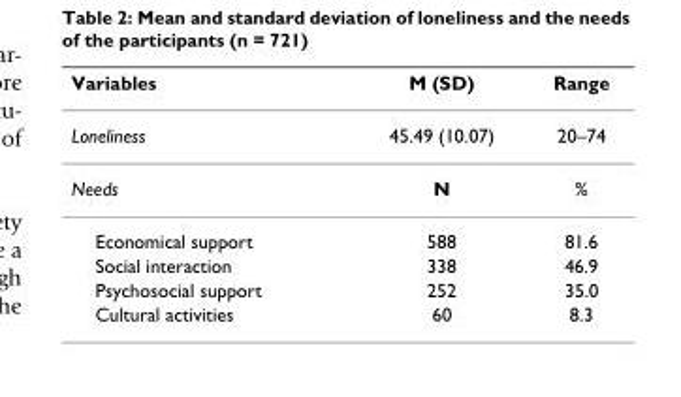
<table><thead><tr><td>Variables</td><td>M (SD)</td><td>Range</td></tr></thead><tbody><tr><td>Loneliness</td><td>45.49 (10.07)</td><td>20–74</td></tr><tr><td>Needs</td><td>N</td><td>%</td></tr><tr><td>Economical support</td><td>588</td><td>81.6</td></tr><tr><td>Social interaction</td><td>338</td><td>46.9</td></tr><tr><td>Psychosocial support</td><td>252</td><td>35.0</td></tr><tr><td>Cultural activities</td><td>60</td><td>8.3</td></tr></tbody></table>